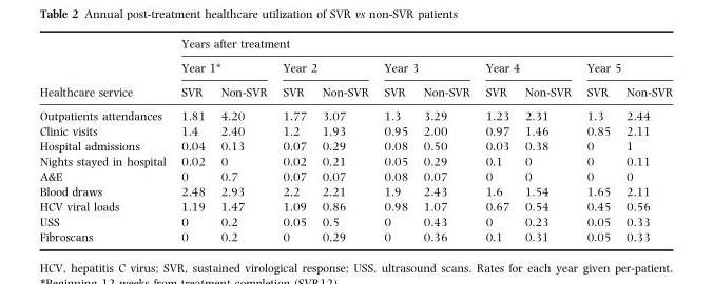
<table><thead><tr><td rowspan="3">Healthcare service</td><td colspan="10">Years after treatment</td></tr><tr><td colspan="2">Year 1*</td><td colspan="2">Year 2</td><td colspan="2">Year 3</td><td colspan="2">Year 4</td><td colspan="2">Year 5</td></tr><tr><td>SVR</td><td>Non-SVR</td><td>SVR</td><td>Non-SVR</td><td>SVR</td><td>Non-SVR</td><td>SVR</td><td>Non-SVR</td><td>SVR</td><td>Non-SVR</td></tr></thead><tbody><tr><td>Outpatients attendances</td><td>1.81</td><td>4.20</td><td>1.77</td><td>3.07</td><td>1.3</td><td>3.29</td><td>1.23</td><td>2.31</td><td>1.3</td><td>2.44</td></tr><tr><td>Clinic visits</td><td>1.4</td><td>2.40</td><td>1.2</td><td>1.93</td><td>0.95</td><td>2.00</td><td>0.97</td><td>1.46</td><td>0.85</td><td>2.11</td></tr><tr><td>Hospital admissions</td><td>0.04</td><td>0.13</td><td>0.07</td><td>0.29</td><td>0.08</td><td>0.50</td><td>0.03</td><td>0.38</td><td>0</td><td>1</td></tr><tr><td>Nights stayed in hospital</td><td>0.02</td><td>0</td><td>0.02</td><td>0.21</td><td>0.05</td><td>0.29</td><td>0.1</td><td>0</td><td>0</td><td>0.11</td></tr><tr><td>A&amp;E</td><td>0</td><td>0.7</td><td>0.07</td><td>0.07</td><td>0.08</td><td>0.07</td><td>0</td><td>0</td><td>0</td><td>0</td></tr><tr><td>Blood draws</td><td>2.48</td><td>2.93</td><td>2.2</td><td>2.21</td><td>1.9</td><td>2.43</td><td>1.6</td><td>1.54</td><td>1.65</td><td>2.11</td></tr><tr><td>HCV viral loads</td><td>1.19</td><td>1.47</td><td>1.09</td><td>0.86</td><td>0.98</td><td>1.07</td><td>0.67</td><td>0.54</td><td>0.45</td><td>0.56</td></tr><tr><td>USS</td><td>0</td><td>0.2</td><td>0.05</td><td>0.5</td><td>0</td><td>0.43</td><td>0</td><td>0.23</td><td>0.05</td><td>0.33</td></tr><tr><td>Fibroscans</td><td>0</td><td>0.2</td><td>0</td><td>0.29</td><td>0</td><td>0.36</td><td>0.1</td><td>0.31</td><td>0.05</td><td>0.33</td></tr></tbody></table>